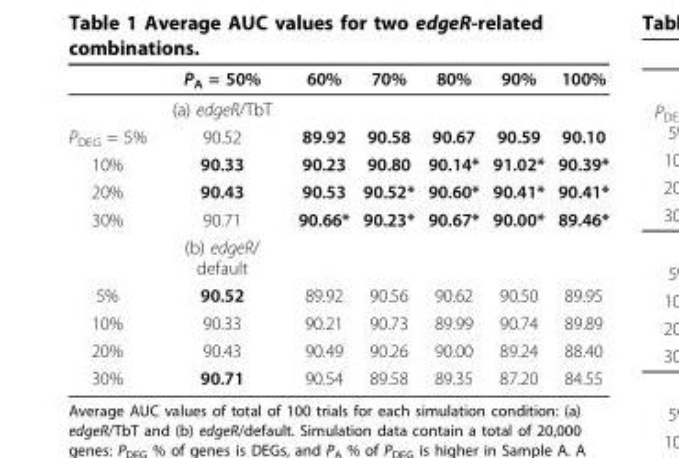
<table><thead><tr><td></td><td>P<sub>A</sub> = 50%</td><td>60%</td><td>70%</td><td>80%</td><td>90%</td><td>100%</td></tr></thead><tbody><tr><td></td><td>(a) edgeR/TbT</td><td></td><td></td><td></td><td></td><td></td></tr><tr><td>P<sub>DEG</sub> = 5%</td><td>90.52</td><td>89.92</td><td>90.58</td><td>90.67</td><td>90.59</td><td>90.10</td></tr><tr><td>10%</td><td>90.33</td><td>90.23</td><td>90.80</td><td>90.14*</td><td>91.02*</td><td>90.39*</td></tr><tr><td>20%</td><td>90.43</td><td>90.53</td><td>90.52*</td><td>90.60*</td><td>90.41*</td><td>90.41*</td></tr><tr><td rowspan="2">30%</td><td>90.71</td><td>90.66*</td><td>90.23*</td><td>90.67*</td><td>90.00*</td><td>89.46*</td></tr><tr><td>(b) edgeR/ default</td><td></td><td></td><td></td><td></td><td></td></tr><tr><td>5%</td><td>90.52</td><td>89.92</td><td>90.56</td><td>90.62</td><td>90.50</td><td>89.95</td></tr><tr><td>10%</td><td>90.33</td><td>90.21</td><td>90.73</td><td>89.99</td><td>90.74</td><td>89.89</td></tr><tr><td>20%</td><td>90.43</td><td>90.49</td><td>90.26</td><td>90.00</td><td>89.24</td><td>88.40</td></tr><tr><td>30%</td><td>90.71</td><td>90.54</td><td>89.58</td><td>89.35</td><td>87.20</td><td>84.55</td></tr></tbody></table>